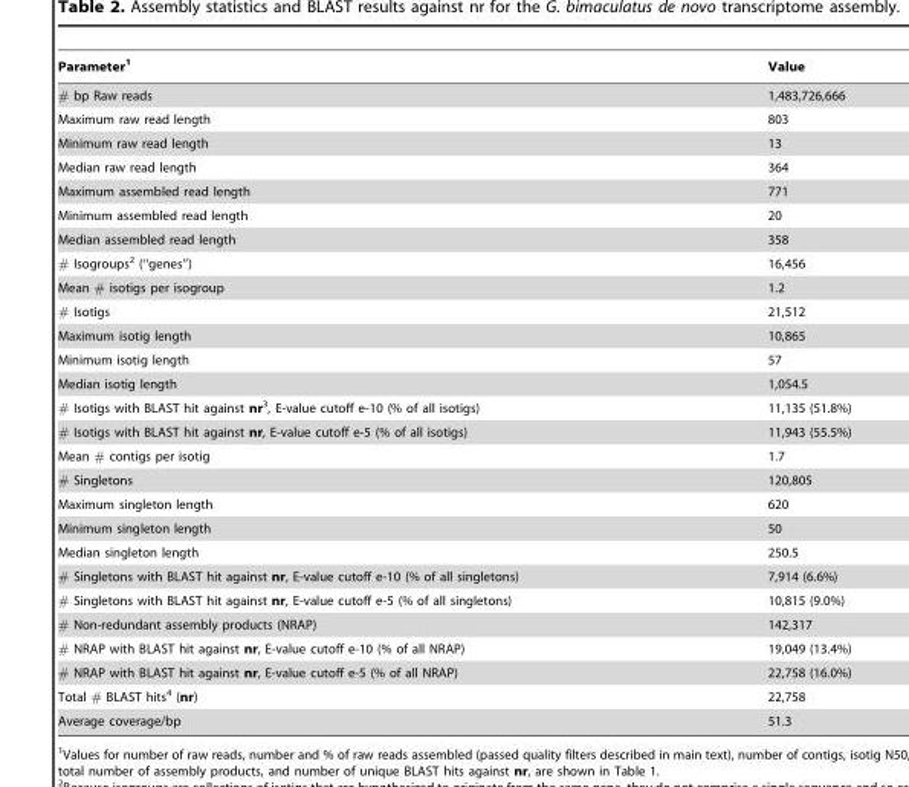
<table><thead><tr><td>Parameter<sup>1</sup></td><td>Value</td></tr></thead><tbody><tr><td># bp Raw reads</td><td>1,483,726,666</td></tr><tr><td>Maximum raw read length</td><td>803</td></tr><tr><td>Minimum raw read length</td><td>13</td></tr><tr><td>Median raw read length</td><td>364</td></tr><tr><td>Maximum assembled read length</td><td>771</td></tr><tr><td>Minimum assembled read length</td><td>20</td></tr><tr><td>Median assembled read length</td><td>358</td></tr><tr><td># Isogroups2 (‘‘genes’’)</td><td>16,456</td></tr><tr><td>Mean # isotigs per isogroup</td><td>1.2</td></tr><tr><td># Isotigs</td><td>21,512</td></tr><tr><td>Maximum isotig length</td><td>10,865</td></tr><tr><td>Minimum isotig length</td><td>57</td></tr><tr><td>Median isotig length</td><td>1,054.5</td></tr><tr><td># Isotigs with BLAST hit against nr3, E-value cutoff e-10 (% of all isotigs)</td><td>11,135 (51.8%)</td></tr><tr><td># Isotigs with BLAST hit against nr, E-value cutoff e-5 (% of all isotigs)</td><td>11,943 (55.5%)</td></tr><tr><td>Mean # contigs per isotig</td><td>1.7</td></tr><tr><td># Singletons</td><td>120,805</td></tr><tr><td>Maximum singleton length</td><td>620</td></tr><tr><td>Minimum singleton length</td><td>50</td></tr><tr><td>Median singleton length</td><td>250.5</td></tr><tr><td># Singletons with BLAST hit against nr, E-value cutoff e-10 (% of all singletons)</td><td>7,914 (6.6%)</td></tr><tr><td># Singletons with BLAST hit against nr, E-value cutoff e-5 (% of all singletons)</td><td>10,815 (9.0%)</td></tr><tr><td># Non-redundant assembly products (NRAP)</td><td>142,317</td></tr><tr><td># NRAP with BLAST hit against nr, E-value cutoff e-10 (% of all NRAP)</td><td>19,049 (13.4%)</td></tr><tr><td># NRAP with BLAST hit against nr, E-value cutoff e-5 (% of all NRAP)</td><td>22,758 (16.0%)</td></tr><tr><td>Total # BLAST hits<sup>4</sup> (nr)</td><td>22,758</td></tr><tr><td>Average coverage/bp</td><td>51.3</td></tr></tbody></table>